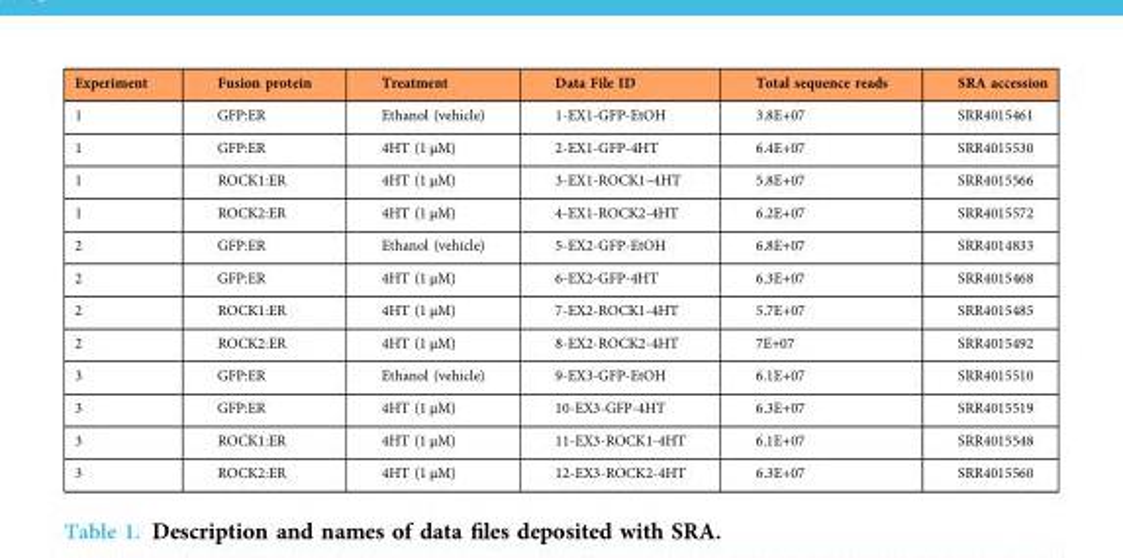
<table><thead><tr><td>Experiment</td><td>Fusion protein</td><td>Treatment</td><td>Data File ID</td><td>Total sequence reads</td><td>SRA accession</td></tr></thead><tbody><tr><td>1</td><td>GFP:ER</td><td>Ethanol (vehicle)</td><td>1-EX1-GFP-EtOH</td><td>3.8E+07</td><td>SRR4015461</td></tr><tr><td>1</td><td>GFP:ER</td><td>4HT (1 μM)</td><td>2-EX1-GFP-4HT</td><td>6.4E+07</td><td>SRR4015530</td></tr><tr><td>1</td><td>ROCK1:ER</td><td>4HT (1 μM)</td><td>3-EX1-ROCK1–4HT</td><td>5.8E+07</td><td>SRR4015566</td></tr><tr><td>1</td><td>ROCK2:ER</td><td>4HT (1 μM)</td><td>4-EX1-ROCK2-4HT</td><td>6.2E+07</td><td>SRR4015572</td></tr><tr><td>2</td><td>GFP:ER</td><td>Ethanol (vehicle)</td><td>5-EX2-GFP-EtOH</td><td>6.8E+07</td><td>SRR4014833</td></tr><tr><td>2</td><td>GFP:ER</td><td>4HT (1 μM)</td><td>6-EX2-GFP-4HT</td><td>6.3E+07</td><td>SRR4015468</td></tr><tr><td>2</td><td>ROCK1:ER</td><td>4HT (1 μM)</td><td>7-EX2-ROCK1-4HT</td><td>5.7E+07</td><td>SRR4015485</td></tr><tr><td>2</td><td>ROCK2:ER</td><td>4HT (1 μM)</td><td>8-EX2-ROCK2-4HT</td><td>7E+07</td><td>SRR4015492</td></tr><tr><td>3</td><td>GFP:ER</td><td>Ethanol (vehicle)</td><td>9-EX3-GFP-EtOH</td><td>6.1E+07</td><td>SRR4015510</td></tr><tr><td>3</td><td>GFP:ER</td><td>4HT (1 μM)</td><td>10-EX3-GFP-4HT</td><td>6.3E+07</td><td>SRR4015519</td></tr><tr><td>3</td><td>ROCK1:ER</td><td>4HT (1 μM)</td><td>11-EX3-ROCK1-4HT</td><td>6.1E+07</td><td>SRR4015548</td></tr><tr><td>3</td><td>ROCK2:ER</td><td>4HT (1 μM)</td><td>12-EX3-ROCK2-4HT</td><td>6.3E+07</td><td>SRR4015560</td></tr></tbody></table>